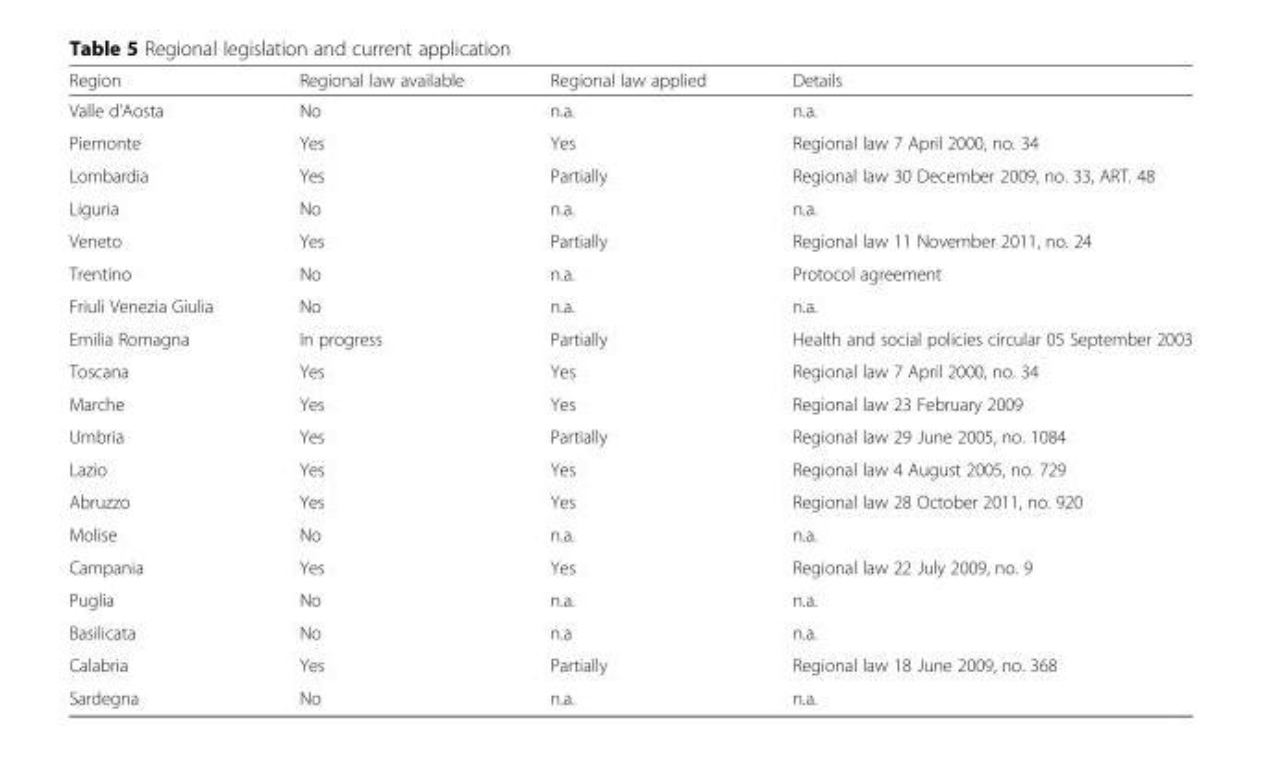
<table><thead><tr><td>Region</td><td>Regional law available</td><td>Regional law applied</td><td>Details</td></tr></thead><tbody><tr><td>Valle d’Aosta</td><td>No</td><td>n.a.</td><td>n.a.</td></tr><tr><td>Piemonte</td><td>Yes</td><td>Yes</td><td>Regional law 7 April 2000, no. 34</td></tr><tr><td>Lombardia</td><td>Yes</td><td>Partially</td><td>Regional law 30 December 2009, no. 33, ART. 48</td></tr><tr><td>Liguria</td><td>No</td><td>n.a.</td><td>n.a.</td></tr><tr><td>Veneto</td><td>Yes</td><td>Partially</td><td>Regional law 11 November 2011, no. 24</td></tr><tr><td>Trentino</td><td>No</td><td>n.a.</td><td>Protocol agreement</td></tr><tr><td>Friuli Venezia Giulia</td><td>No</td><td>n.a.</td><td>n.a.</td></tr><tr><td>Emilia Romagna</td><td>In progress</td><td>Partially</td><td>Health and social policies circular 05 September 2003</td></tr><tr><td>Toscana</td><td>Yes</td><td>Yes</td><td>Regional law 7 April 2000, no. 34</td></tr><tr><td>Marche</td><td>Yes</td><td>Yes</td><td>Regional law 23 February 2009</td></tr><tr><td>Umbria</td><td>Yes</td><td>Partially</td><td>Regional law 29 June 2005, no. 1084</td></tr><tr><td>Lazio</td><td>Yes</td><td>Yes</td><td>Regional law 4 August 2005, no. 729</td></tr><tr><td>Abruzzo</td><td>Yes</td><td>Yes</td><td>Regional law 28 October 2011, no. 920</td></tr><tr><td>Molise</td><td>No</td><td>n.a.</td><td>n.a.</td></tr><tr><td>Campania</td><td>Yes</td><td>Yes</td><td>Regional law 22 July 2009, no. 9</td></tr><tr><td>Puglia</td><td>No</td><td>n.a.</td><td>n.a.</td></tr><tr><td>Basilicata</td><td>No</td><td>n.a</td><td>n.a.</td></tr><tr><td>Calabria</td><td>Yes</td><td>Partially</td><td>Regional law 18 June 2009, no. 368</td></tr><tr><td>Sardegna</td><td>No</td><td>n.a.</td><td>n.a.</td></tr></tbody></table>